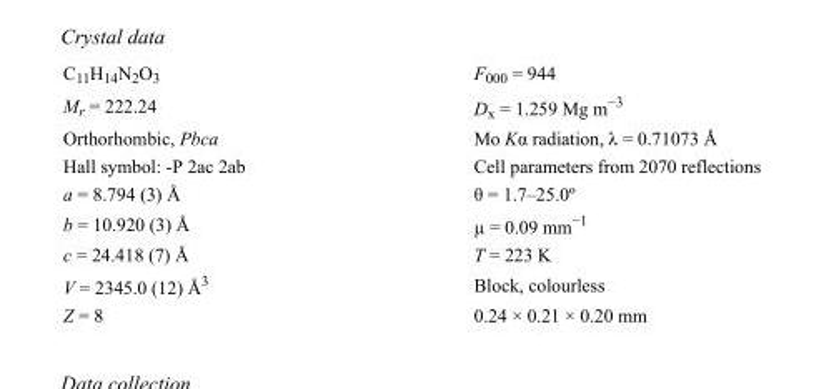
<table><tbody><tr><td>C<sub>11</sub>H<sub>14</sub>N<sub>2</sub>O<sub>3</sub></td><td>F000 = 944</td></tr><tr><td>M<sub>r</sub> = 222.24</td><td>D<sub>x</sub> = 1.259 Mg m<sup>−3</sup></td></tr><tr><td>Orthorhombic, Pbca</td><td>Mo Kα radiation, λ = 0.71073 Å</td></tr><tr><td>Hall symbol: -P 2ac 2ab</td><td>Cell parameters from 2070 reflections</td></tr><tr><td>a = 8.794 (3) Å</td><td>θ = 1.7–25.0º</td></tr><tr><td>b = 10.920 (3) Å</td><td>µ = 0.09 mm<sup>−1</sup></td></tr><tr><td>c = 24.418 (7) Å</td><td>T = 223 K</td></tr><tr><td>V = 2345.0 (12) Å<sup>3</sup></td><td>Block, colourless</td></tr><tr><td>Z = 8</td><td>0.24 × 0.21 × 0.20 mm</td></tr></tbody></table>